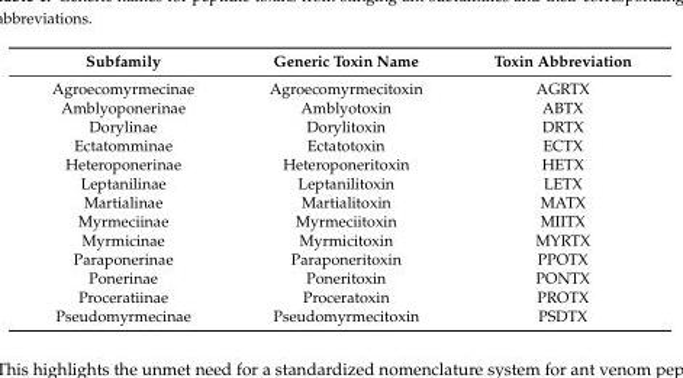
<table><thead><tr><td>Subfamily</td><td>Generic Toxin Name</td><td>Toxin Abbreviation</td></tr></thead><tbody><tr><td>Agroecomyrmecinae</td><td>Agroecomyrmecitoxin</td><td>AGRTX</td></tr><tr><td>Amblyoponerinae</td><td>Amblyotoxin</td><td>ABTX</td></tr><tr><td>Dorylinae</td><td>Dorylitoxin</td><td>DRTX</td></tr><tr><td>Ectatomminae</td><td>Ectatotoxin</td><td>ECTX</td></tr><tr><td>Heteroponerinae</td><td>Heteroponeritoxin</td><td>HETX</td></tr><tr><td>Leptanilinae</td><td>Leptanilitoxin</td><td>LETX</td></tr><tr><td>Martialinae</td><td>Martialitoxin</td><td>MATX</td></tr><tr><td>Myrmeciinae</td><td>Myrmeciitoxin</td><td>MIITX</td></tr><tr><td>Myrmicinae</td><td>Myrmicitoxin</td><td>MYRTX</td></tr><tr><td>Paraponerinae</td><td>Paraponeritoxin</td><td>PPOTX</td></tr><tr><td>Ponerinae</td><td>Poneritoxin</td><td>PONTX</td></tr><tr><td>Proceratiinae</td><td>Proceratoxin</td><td>PROTX</td></tr><tr><td>Pseudomyrmecinae</td><td>Pseudomyrmecitoxin</td><td>PSDTX</td></tr></tbody></table>